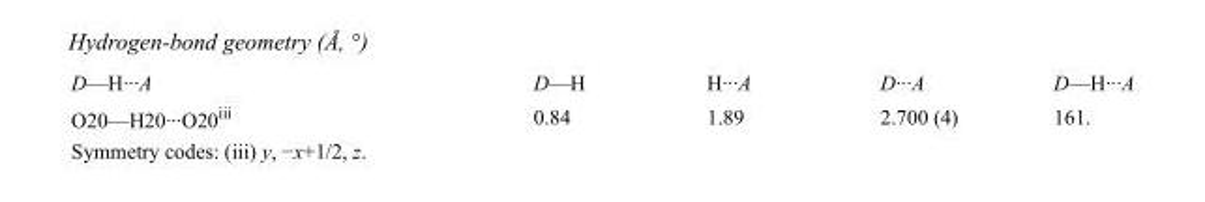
<table><tbody><tr><td>D—H···A</td><td>D—H</td><td>H···A</td><td>D···A</td><td>D—H···A</td></tr><tr><td>O20—H20···O20<sup>iii</sup></td><td>0.84</td><td>1.89</td><td>2.700 (4)</td><td>161.</td></tr></tbody></table>